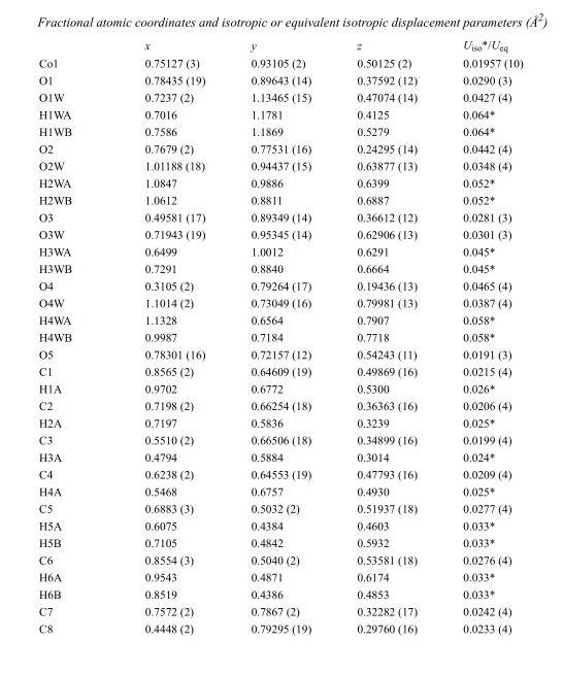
<table><thead><tr><td></td><td>x</td><td>y</td><td>z</td><td>U<sub>iso</sub>*/U<sub>eq</sub></td></tr></thead><tbody><tr><td>Co1</td><td>0.75127 (3)</td><td>0.93105 (2)</td><td>0.50125 (2)</td><td>0.01957 (10)</td></tr><tr><td>O1</td><td>0.78435 (19)</td><td>0.89643 (14)</td><td>0.37592 (12)</td><td>0.0290 (3)</td></tr><tr><td>O1W</td><td>0.7237 (2)</td><td>1.13465 (15)</td><td>0.47074 (14)</td><td>0.0427 (4)</td></tr><tr><td>H1WA</td><td>0.7016</td><td>1.1781</td><td>0.4125</td><td>0.064*</td></tr><tr><td>H1WB</td><td>0.7586</td><td>1.1869</td><td>0.5279</td><td>0.064*</td></tr><tr><td>O2</td><td>0.7679 (2)</td><td>0.77531 (16)</td><td>0.24295 (14)</td><td>0.0442 (4)</td></tr><tr><td>O2W</td><td>1.01188 (18)</td><td>0.94437 (15)</td><td>0.63877 (13)</td><td>0.0348 (4)</td></tr><tr><td>H2WA</td><td>1.0847</td><td>0.9886</td><td>0.6399</td><td>0.052*</td></tr><tr><td>H2WB</td><td>1.0612</td><td>0.8811</td><td>0.6887</td><td>0.052*</td></tr><tr><td>O3</td><td>0.49581 (17)</td><td>0.89349 (14)</td><td>0.36612 (12)</td><td>0.0281 (3)</td></tr><tr><td>O3W</td><td>0.71943 (19)</td><td>0.95345 (14)</td><td>0.62906 (13)</td><td>0.0301 (3)</td></tr><tr><td>H3WA</td><td>0.6499</td><td>1.0012</td><td>0.6291</td><td>0.045*</td></tr><tr><td>H3WB</td><td>0.7291</td><td>0.8840</td><td>0.6664</td><td>0.045*</td></tr><tr><td>O4</td><td>0.3105 (2)</td><td>0.79264 (17)</td><td>0.19436 (13)</td><td>0.0465 (4)</td></tr><tr><td>O4W</td><td>1.1014 (2)</td><td>0.73049 (16)</td><td>0.79981 (13)</td><td>0.0387 (4)</td></tr><tr><td>H4WA</td><td>1.1328</td><td>0.6564</td><td>0.7907</td><td>0.058*</td></tr><tr><td>H4WB</td><td>0.9987</td><td>0.7184</td><td>0.7718</td><td>0.058*</td></tr><tr><td>O5</td><td>0.78301 (16)</td><td>0.72157 (12)</td><td>0.54243 (11)</td><td>0.0191 (3)</td></tr><tr><td>C1</td><td>0.8565 (2)</td><td>0.64609 (19)</td><td>0.49869 (16)</td><td>0.0215 (4)</td></tr><tr><td>H1A</td><td>0.9702</td><td>0.6772</td><td>0.5300</td><td>0.026*</td></tr><tr><td>C2</td><td>0.7198 (2)</td><td>0.66254 (18)</td><td>0.36363 (16)</td><td>0.0206 (4)</td></tr><tr><td>H2A</td><td>0.7197</td><td>0.5836</td><td>0.3239</td><td>0.025*</td></tr><tr><td>C3</td><td>0.5510 (2)</td><td>0.66506 (18)</td><td>0.34899 (16)</td><td>0.0199 (4)</td></tr><tr><td>H3A</td><td>0.4794</td><td>0.5884</td><td>0.3014</td><td>0.024*</td></tr><tr><td>C4</td><td>0.6238 (2)</td><td>0.64553 (19)</td><td>0.47793 (16)</td><td>0.0209 (4)</td></tr><tr><td>H4A</td><td>0.5468</td><td>0.6757</td><td>0.4930</td><td>0.025*</td></tr><tr><td>C5</td><td>0.6883 (3)</td><td>0.5032 (2)</td><td>0.51937 (18)</td><td>0.0277 (4)</td></tr><tr><td>H5A</td><td>0.6075</td><td>0.4384</td><td>0.4603</td><td>0.033*</td></tr><tr><td>H5B</td><td>0.7105</td><td>0.4842</td><td>0.5932</td><td>0.033*</td></tr><tr><td>C6</td><td>0.8554 (3)</td><td>0.5040 (2)</td><td>0.53581 (18)</td><td>0.0276 (4)</td></tr><tr><td>H6A</td><td>0.9543</td><td>0.4871</td><td>0.6174</td><td>0.033*</td></tr><tr><td>H6B</td><td>0.8519</td><td>0.4386</td><td>0.4853</td><td>0.033*</td></tr><tr><td>C7</td><td>0.7572 (2)</td><td>0.7867 (2)</td><td>0.32282 (17)</td><td>0.0242 (4)</td></tr><tr><td>C8</td><td>0.4448 (2)</td><td>0.79295 (19)</td><td>0.29760 (16)</td><td>0.0233 (4)</td></tr></tbody></table>